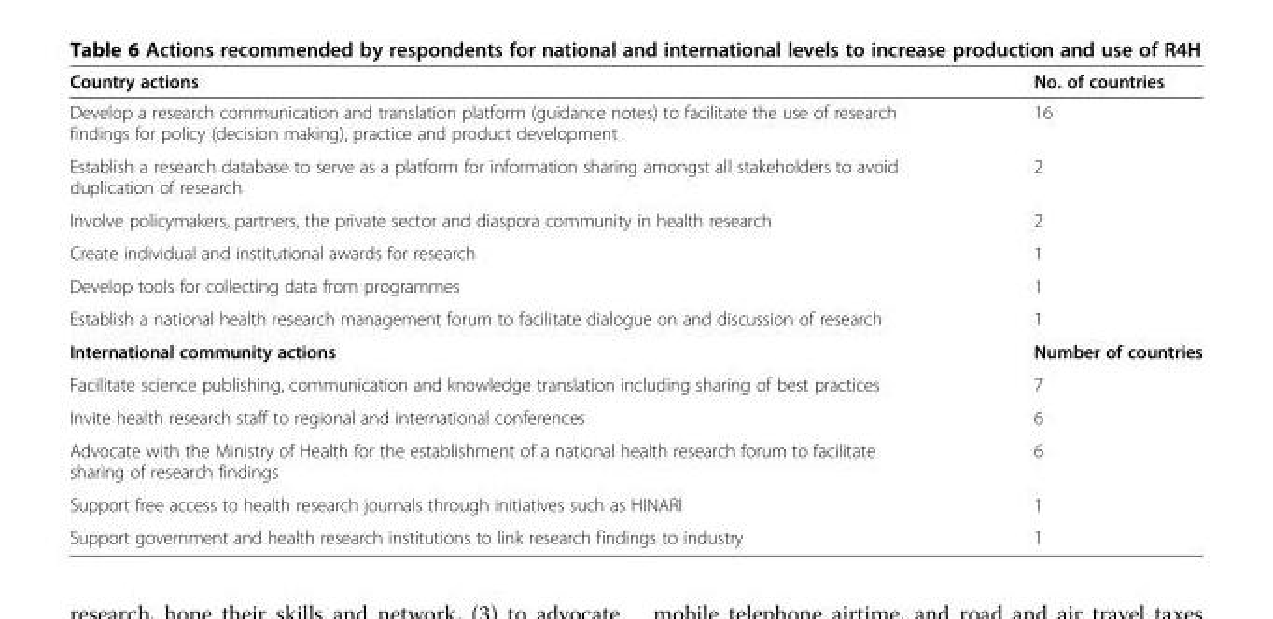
<table><thead><tr><td>Country actions</td><td>No. of countries</td></tr></thead><tbody><tr><td>Develop a research communication and translation platform (guidance notes) to facilitate the use of research findings for policy (decision making), practice and product development</td><td>16</td></tr><tr><td>Establish a research database to serve as a platform for information sharing amongst all stakeholders to avoid duplication of research</td><td>2</td></tr><tr><td>Involve policymakers, partners, the private sector and diaspora community in health research</td><td>2</td></tr><tr><td>Create individual and institutional awards for research</td><td>1</td></tr><tr><td>Develop tools for collecting data from programmes</td><td>1</td></tr><tr><td>Establish a national health research management forum to facilitate dialogue on and discussion of research</td><td>1</td></tr><tr><td>International community actions</td><td>Number of countries</td></tr><tr><td>Facilitate science publishing, communication and knowledge translation including sharing of best practices</td><td>7</td></tr><tr><td>Invite health research staff to regional and international conferences</td><td>6</td></tr><tr><td>Advocate with the Ministry of Health for the establishment of a national health research forum to facilitate sharing of research findings</td><td>6</td></tr><tr><td>Support free access to health research journals through initiatives such as HINARI</td><td>1</td></tr><tr><td>Support government and health research institutions to link research findings to industry</td><td>1</td></tr></tbody></table>